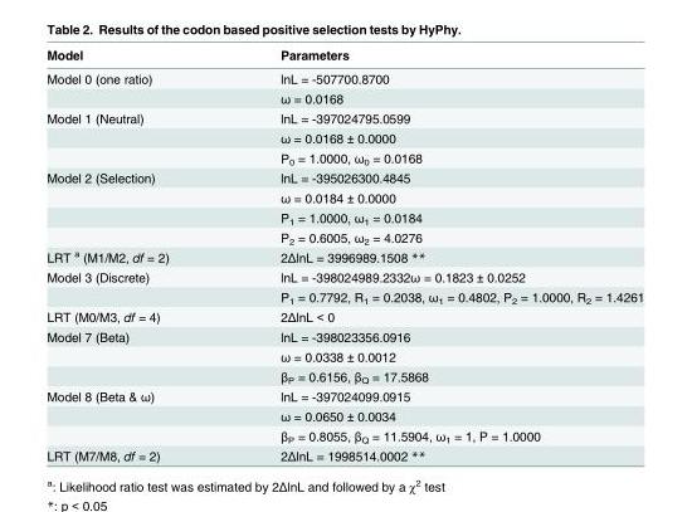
<table><thead><tr><td>Model</td><td>Parameters</td></tr></thead><tbody><tr><td rowspan="2">Model 0 (one ratio)</td><td>lnL = -507700.8700</td></tr><tr><td>ω = 0.0168</td></tr><tr><td rowspan="3">Model 1 (Neutral)</td><td>lnL = -397024795.0599</td></tr><tr><td>ω = 0.0168 ± 0.0000</td></tr><tr><td>P<sub>0</sub> = 1.0000, ω<sub>0</sub> = 0.0168</td></tr><tr><td rowspan="4">Model 2 (Selection)</td><td>lnL = -395026300.4845</td></tr><tr><td>ω = 0.0184 ± 0.0000</td></tr><tr><td>P<sub>1</sub> = 1.0000, ω<sub>1</sub> = 0.0184</td></tr><tr><td>P<sub>2</sub> = 0.6005, ω<sub>2</sub> = 4.0276</td></tr><tr><td>LRT <sup>a</sup> (M1/M2, df = 2)</td><td>2ΔlnL = 3996989.1508 **</td></tr><tr><td rowspan="2">Model 3 (Discrete)</td><td>lnL = -398024989.2332ω = 0.1823 ± 0.0252</td></tr><tr><td>P<sub>1</sub> = 0.7792, R<sub>1</sub> = 0.2038, ω<sub>1</sub> = 0.4802, P<sub>2</sub> = 1.0000, R<sub>2</sub> = 1.4261</td></tr><tr><td>LRT (M0/M3, df = 4)</td><td>2ΔlnL &lt; 0</td></tr><tr><td rowspan="3">Model 7 (Beta)</td><td>lnL = -398023356.0916</td></tr><tr><td>ω = 0.0338 ± 0.0012</td></tr><tr><td>β<sub>P</sub> = 0.6156, β<sub>Q</sub> = 17.5868</td></tr><tr><td rowspan="3">Model 8 (Beta &amp; ω)</td><td>lnL = -397024099.0915</td></tr><tr><td>ω = 0.0650 ± 0.0034</td></tr><tr><td>β<sub>P</sub> = 0.8055, β<sub>Q</sub> = 11.5904, ω<sub>1</sub> = 1, P = 1.0000</td></tr><tr><td>LRT (M7/M8, df = 2)</td><td>2ΔlnL = 1998514.0002 **</td></tr></tbody></table>